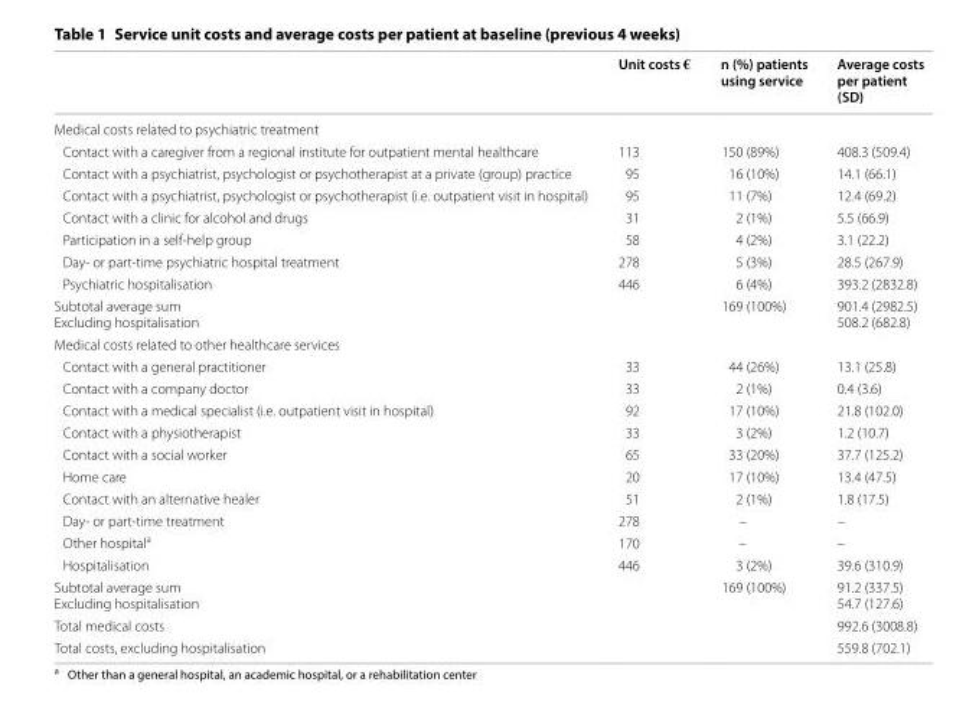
<table><thead><tr><td></td><td>Unit costs €</td><td>n (%) patients using service</td><td>Average costs per patient (SD)</td></tr></thead><tbody><tr><td colspan="4">Medical costs related to psychiatric treatment</td></tr><tr><td>Contact with a caregiver from a regional institute for outpatient mental healthcare</td><td>113</td><td>150 (89%)</td><td>408.3 (509.4)</td></tr><tr><td>Contact with a psychiatrist, psychologist or psychotherapist at a private (group) practice</td><td>95</td><td>16 (10%)</td><td>14.1 (66.1)</td></tr><tr><td>Contact with a psychiatrist, psychologist or psychotherapist (i.e. outpatient visit in hospital)</td><td>95</td><td>11 (7%)</td><td>12.4 (69.2)</td></tr><tr><td>Contact with a clinic for alcohol and drugs</td><td>31</td><td>2 (1%)</td><td>5.5 (66.9)</td></tr><tr><td>Participation in a self-help group</td><td>58</td><td>4 (2%)</td><td>3.1 (22.2)</td></tr><tr><td>Day- or part-time psychiatric hospital treatment</td><td>278</td><td>5 (3%)</td><td>28.5 (267.9)</td></tr><tr><td>Psychiatric hospitalisation</td><td>446</td><td>6 (4%)</td><td>393.2 (2832.8)</td></tr><tr><td>Subtotal average sum Excluding hospitalisation</td><td></td><td>169 (100%)</td><td>901.4 (2982.5) 508.2 (682.8)</td></tr><tr><td colspan="4">Medical costs related to other healthcare services</td></tr><tr><td>Contact with a general practitioner</td><td>33</td><td>44 (26%)</td><td>13.1 (25.8)</td></tr><tr><td>Contact with a company doctor</td><td>33</td><td>2 (1%)</td><td>0.4 (3.6)</td></tr><tr><td>Contact with a medical specialist (i.e. outpatient visit in hospital)</td><td>92</td><td>17 (10%)</td><td>21.8 (102.0)</td></tr><tr><td>Contact with a physiotherapist</td><td>33</td><td>3 (2%)</td><td>1.2 (10.7)</td></tr><tr><td>Contact with a social worker</td><td>65</td><td>33 (20%)</td><td>37.7 (125.2)</td></tr><tr><td>Home care</td><td>20</td><td>17 (10%)</td><td>13.4 (47.5)</td></tr><tr><td>Contact with an alternative healer</td><td>51</td><td>2 (1%)</td><td>1.8 (17.5)</td></tr><tr><td>Day- or part-time treatment</td><td>278</td><td>–</td><td>–</td></tr><tr><td>Other hospital<sup>a</sup></td><td>170</td><td>–</td><td>–</td></tr><tr><td>Hospitalisation</td><td>446</td><td>3 (2%)</td><td>39.6 (310.9)</td></tr><tr><td>Subtotal average sum Excluding hospitalisation</td><td></td><td>169 (100%)</td><td>91.2 (337.5) 54.7 (127.6)</td></tr><tr><td>Total medical costs</td><td></td><td></td><td>992.6 (3008.8)</td></tr><tr><td>Total costs, excluding hospitalisation</td><td></td><td></td><td>559.8 (702.1)</td></tr></tbody></table>